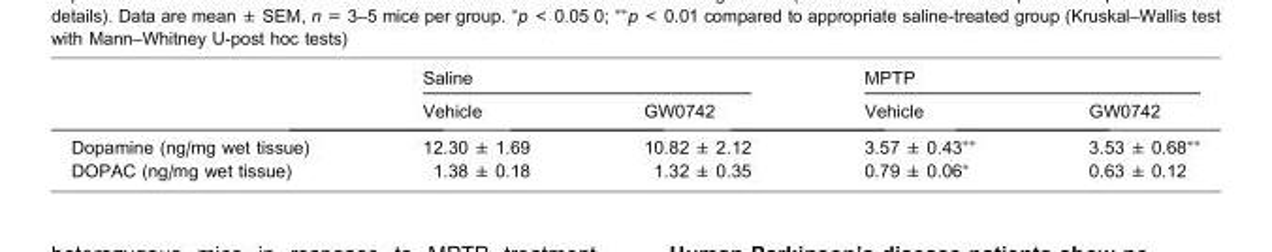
<table><thead><tr><td rowspan="2"></td><td colspan="2">Saline</td><td colspan="2">MPTP</td></tr><tr><td>Vehicle</td><td>GW0742</td><td>Vehicle</td><td>GW0742</td></tr></thead><tbody><tr><td>Dopamine (ng/mg wet tissue)</td><td>12.30 ± 1.69</td><td>10.82 ± 2.12</td><td>3.57 ± 0.43⁄⁄</td><td>3.53 ± 0.68⁄⁄</td></tr><tr><td>DOPAC (ng/mg wet tissue)</td><td>1.38 ± 0.18</td><td>1.32 ± 0.35</td><td>0.79 ± 0.06⁄</td><td>0.63 ± 0.12</td></tr></tbody></table>